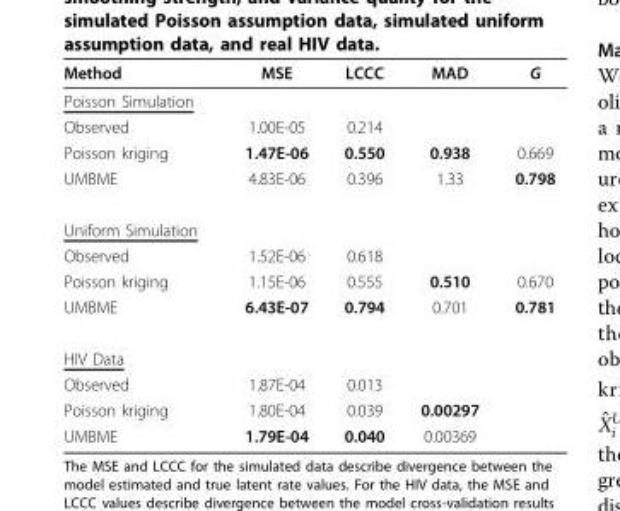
<table><thead><tr><td>Method</td><td>MSE</td><td>LCCC</td><td>MAD</td><td>G</td></tr></thead><tbody><tr><td colspan="5">Poisson Simulation</td></tr><tr><td>Observed</td><td>1.00E-05</td><td>0.214</td><td></td><td></td></tr><tr><td>Poisson kriging</td><td>1.47E-06</td><td>0.550</td><td>0.938</td><td>0.669</td></tr><tr><td>UMBME</td><td>4.83E-06</td><td>0.396</td><td>1.33</td><td>0.798</td></tr><tr><td colspan="5">Uniform Simulation</td></tr><tr><td>Observed</td><td>1.52E-06</td><td>0.618</td><td></td><td></td></tr><tr><td>Poisson kriging</td><td>1.15E-06</td><td>0.555</td><td>0.510</td><td>0.670</td></tr><tr><td>UMBME</td><td>6.43E-07</td><td>0.794</td><td>0.701</td><td>0.781</td></tr><tr><td colspan="5">HIV Data</td></tr><tr><td>Observed</td><td>1.87E-04</td><td>0.013</td><td></td><td></td></tr><tr><td>Poisson kriging</td><td>1.80E-04</td><td>0.039</td><td>0.00297</td><td></td></tr><tr><td>UMBME</td><td>1.79E-04</td><td>0.040</td><td>0.00369</td><td></td></tr></tbody></table>